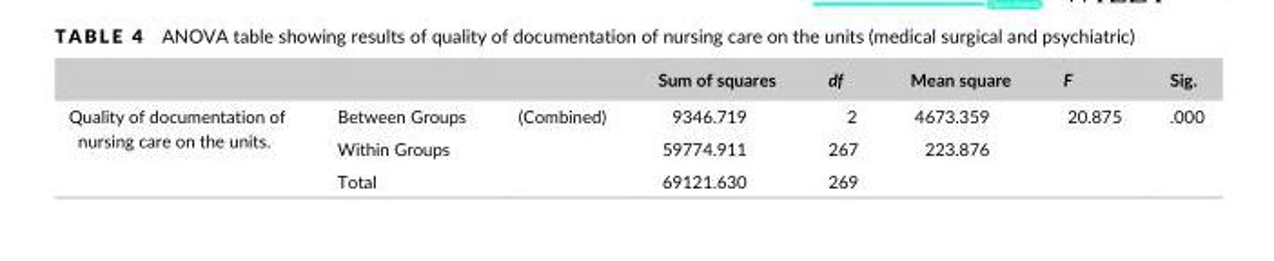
<table><thead><tr><td></td><td></td><td></td><td>Sum of squares</td><td>df</td><td>Mean square</td><td>F</td><td>Sig.</td></tr></thead><tbody><tr><td rowspan="3">Quality of documentation of nursing care on the units.</td><td>Between Groups</td><td>(Combined)</td><td>9346.719</td><td>2</td><td>4673.359</td><td>20.875</td><td>.000</td></tr><tr><td colspan="2">Within Groups</td><td>59774.911</td><td>267</td><td>223.876</td><td></td><td></td></tr><tr><td colspan="2">Total</td><td>69121.630</td><td>269</td><td></td><td></td><td></td></tr></tbody></table>